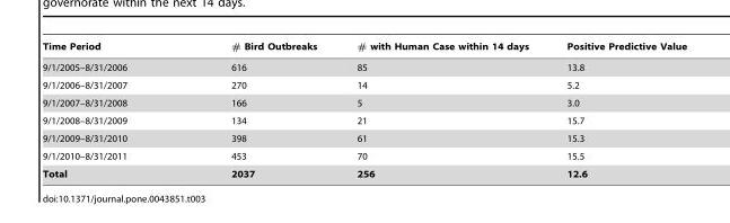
<table><thead><tr><td>Time Period</td><td># Bird Outbreaks</td><td># with Human Case within 14 days</td><td>Positive Predictive Value</td></tr></thead><tbody><tr><td>9/1/2005–8/31/2006</td><td>616</td><td>85</td><td>13.8</td></tr><tr><td>9/1/2006–8/31/2007</td><td>270</td><td>14</td><td>5.2</td></tr><tr><td>9/1/2007–8/31/2008</td><td>166</td><td>5</td><td>3.0</td></tr><tr><td>9/1/2008–8/31/2009</td><td>134</td><td>21</td><td>15.7</td></tr><tr><td>9/1/2009–8/31/2010</td><td>398</td><td>61</td><td>15.3</td></tr><tr><td>9/1/2010–8/31/2011</td><td>453</td><td>70</td><td>15.5</td></tr><tr><td>Total</td><td>2037</td><td>256</td><td>12.6</td></tr></tbody></table>